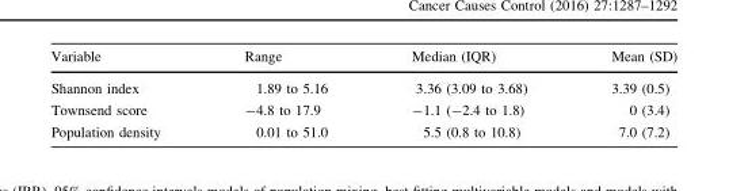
<table><thead><tr><td>Variable</td><td>Range</td><td>Median (IQR)</td><td>Mean (SD)</td></tr></thead><tbody><tr><td>Shannon index</td><td>1.89 to 5.16</td><td>3.36 (3.09 to 3.68)</td><td>3.39 (0.5)</td></tr><tr><td>Townsend score</td><td>-4.8 to 17.9</td><td>-1.1 (-2.4 to 1.8)</td><td>0 (3.4)</td></tr><tr><td>Population density</td><td>0.01 to 51.0</td><td>5.5 (0.8 to 10.8)</td><td>7.0 (7.2)</td></tr></tbody></table>